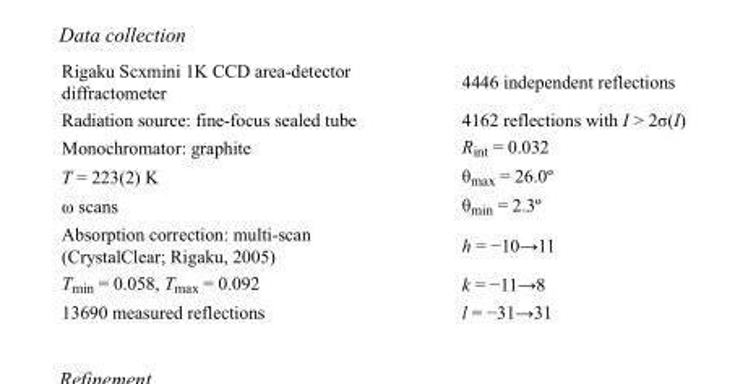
<table><tbody><tr><td>Rigaku Scxmini 1K CCD area-detector diffractometer</td><td>4446 independent reflections</td></tr><tr><td>Radiation source: fine-focus sealed tube</td><td>4162 reflections with I &gt; 2σ(I)</td></tr><tr><td>Monochromator: graphite</td><td>R<sub>int</sub> = 0.032</td></tr><tr><td>T = 223(2) K</td><td>θ<sub>max</sub> = 26.0º</td></tr><tr><td>ω scans</td><td>θ<sub>min</sub> = 2.3º</td></tr><tr><td>Absorption correction: multi-scan (CrystalClear; Rigaku, 2005)</td><td>h = −10→11</td></tr><tr><td>T<sub>min</sub> = 0.058, T<sub>max</sub> = 0.092</td><td>k = −11→8</td></tr><tr><td>13690 measured reflections</td><td>l = −31→31</td></tr></tbody></table>